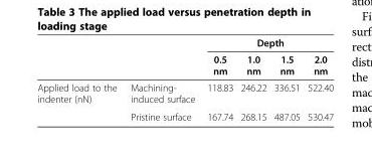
<table><thead><tr><td rowspan="2"></td><td rowspan="2"></td><td colspan="4">Depth</td></tr><tr><td>0.5 nm</td><td>1.0 nm</td><td>1.5 nm</td><td>2.0 nm</td></tr></thead><tbody><tr><td rowspan="2">Applied load to the indenter (nN)</td><td>Machining- induced surface</td><td>118.83</td><td>246.22</td><td>336.51</td><td>522.40</td></tr><tr><td>Pristine surface</td><td>167.74</td><td>268.15</td><td>487.05</td><td>530.47</td></tr></tbody></table>